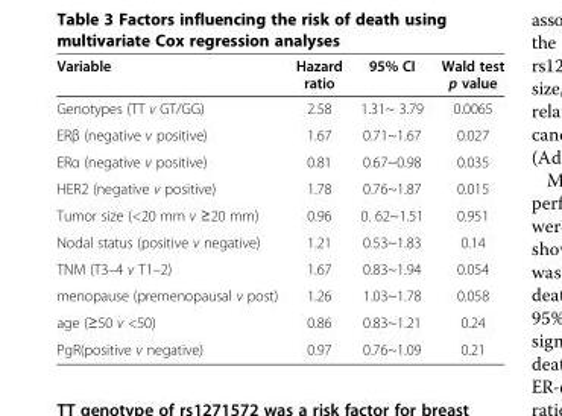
<table><thead><tr><td>Variable</td><td>Hazard ratio</td><td>95% CI</td><td>Wald test p value</td></tr></thead><tbody><tr><td>Genotypes (TT v GT/GG)</td><td>2.58</td><td>1.31~ 3.79</td><td>0.0065</td></tr><tr><td>ERβ (negative v positive)</td><td>1.67</td><td>0.71~1.67</td><td>0.027</td></tr><tr><td>ERα (negative v positive)</td><td>0.81</td><td>0.67~0.98</td><td>0.035</td></tr><tr><td>HER2 (negative v positive)</td><td>1.78</td><td>0.76~1.87</td><td>0.015</td></tr><tr><td>Tumor size (&lt;20 mm v ≥20 mm)</td><td>0.96</td><td>0. 62~1.51</td><td>0.951</td></tr><tr><td>Nodal status (positive v negative)</td><td>1.21</td><td>0.53~1.83</td><td>0.14</td></tr><tr><td>TNM (T3–4 v T1–2)</td><td>1.67</td><td>0.83~1.94</td><td>0.054</td></tr><tr><td>menopause (premenopausal v post)</td><td>1.26</td><td>1.03~1.78</td><td>0.058</td></tr><tr><td>age (≥50 v &lt;50)</td><td>0.86</td><td>0.83~1.21</td><td>0.24</td></tr><tr><td>PgR(positive v negative)</td><td>0.97</td><td>0.76~1.09</td><td>0.21</td></tr></tbody></table>